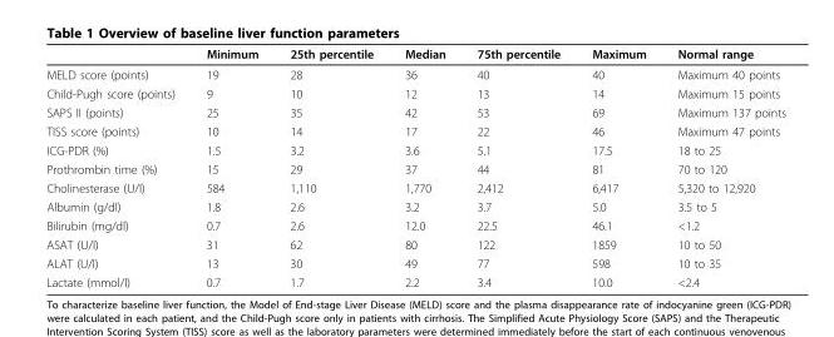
<table><thead><tr><td></td><td>Minimum</td><td>25th percentile</td><td>Median</td><td>75th percentile</td><td>Maximum</td><td>Normal range</td></tr></thead><tbody><tr><td>MELD score (points)</td><td>19</td><td>28</td><td>36</td><td>40</td><td>40</td><td>Maximum 40 points</td></tr><tr><td>Child-Pugh score (points)</td><td>9</td><td>10</td><td>12</td><td>13</td><td>14</td><td>Maximum 15 points</td></tr><tr><td>SAPS II (points)</td><td>25</td><td>35</td><td>42</td><td>53</td><td>69</td><td>Maximum 137 points</td></tr><tr><td>TISS score (points)</td><td>10</td><td>14</td><td>17</td><td>22</td><td>46</td><td>Maximum 47 points</td></tr><tr><td>ICG-PDR (%)</td><td>1.5</td><td>3.2</td><td>3.6</td><td>5.1</td><td>17.5</td><td>18 to 25</td></tr><tr><td>Prothrombin time (%)</td><td>15</td><td>29</td><td>37</td><td>44</td><td>81</td><td>70 to 120</td></tr><tr><td>Cholinesterase (U/l)</td><td>584</td><td>1,110</td><td>1,770</td><td>2,412</td><td>6,417</td><td>5,320 to 12,920</td></tr><tr><td>Albumin (g/dl)</td><td>1.8</td><td>2.6</td><td>3.2</td><td>3.7</td><td>5.0</td><td>3.5 to 5</td></tr><tr><td>Bilirubin (mg/dl)</td><td>0.7</td><td>2.6</td><td>12.0</td><td>22.5</td><td>46.1</td><td>&lt;1.2</td></tr><tr><td>ASAT (U/l)</td><td>31</td><td>62</td><td>80</td><td>122</td><td>1859</td><td>10 to 50</td></tr><tr><td>ALAT (U/l)</td><td>13</td><td>30</td><td>49</td><td>77</td><td>598</td><td>10 to 35</td></tr><tr><td>Lactate (mmol/l)</td><td>0.7</td><td>1.7</td><td>2.2</td><td>3.4</td><td>10.0</td><td>&lt;2.4</td></tr></tbody></table>